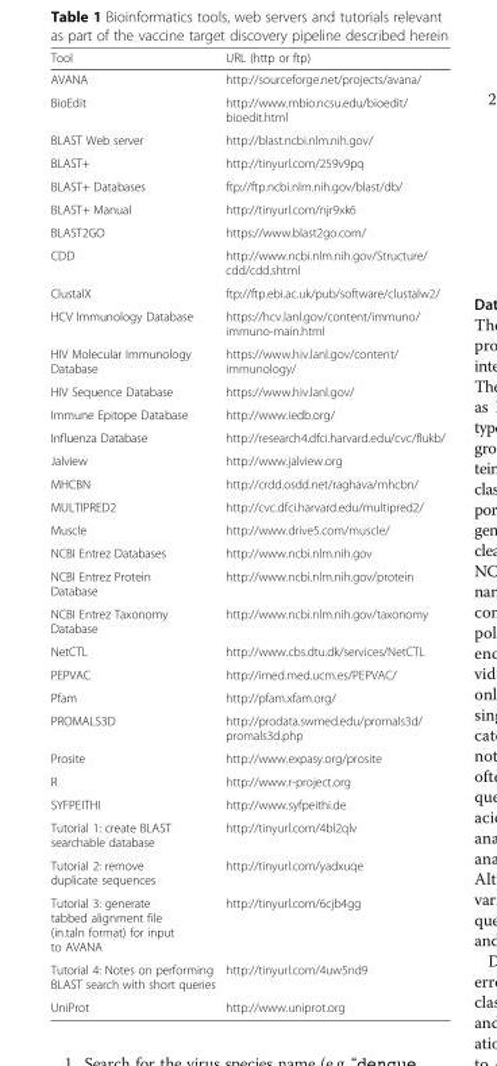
<table><thead><tr><td>Tool</td><td>URL (http or ftp)</td></tr></thead><tbody><tr><td>AVANA</td><td>http://sourceforge.net/projects/avana/</td></tr><tr><td>BioEdit</td><td>http://www.mbio.ncsu.edu/bioedit/ bioedit.html</td></tr><tr><td>BLAST Web server</td><td>http://blast.ncbi.nlm.nih.gov/</td></tr><tr><td>BLAST+</td><td>http://tinyurl.com/259v9pq</td></tr><tr><td>BLAST+ Databases</td><td>ftp://ftp.ncbi.nlm.nih.gov/blast/db/</td></tr><tr><td>BLAST+ Manual</td><td>http://tinyurl.com/njr9xk6</td></tr><tr><td>BLAST2GO</td><td>https://www.blast2go.com/</td></tr><tr><td>CDD</td><td>http://www.ncbi.nlm.nih.gov/Structure/ cdd/cdd.shtml</td></tr><tr><td>ClustalX</td><td>ftp://ftp.ebi.ac.uk/pub/software/clustalw2/</td></tr><tr><td>HCV Immunology Database</td><td>https://hcv.lanl.gov/content/immuno/ immuno-main.html</td></tr><tr><td>HIV Molecular Immunology Database</td><td>https://www.hiv.lanl.gov/content/ immunology/</td></tr><tr><td>HIV Sequence Database</td><td>https://www.hiv.lanl.gov/</td></tr><tr><td>Immune Epitope Database</td><td>http://www.iedb.org/</td></tr><tr><td>Influenza Database</td><td>http://research4.dfci.harvard.edu/cvc/flukb/</td></tr><tr><td>Jalview</td><td>http://www.jalview.org</td></tr><tr><td>MHCBN</td><td>http://crdd.osdd.net/raghava/mhcbn/</td></tr><tr><td>MULTIPRED2</td><td>http://cvc.dfci.harvard.edu/multipred2/</td></tr><tr><td>Muscle</td><td>http://www.drive5.com/muscle/</td></tr><tr><td>NCBI Entrez Databases</td><td>http://www.ncbi.nlm.nih.gov</td></tr><tr><td>NCBI Entrez Protein Database</td><td>http://www.ncbi.nlm.nih.gov/protein</td></tr><tr><td>NCBI Entrez Taxonomy Database</td><td>http://www.ncbi.nlm.nih.gov/taxonomy</td></tr><tr><td>NetCTL</td><td>http://www.cbs.dtu.dk/services/NetCTL</td></tr><tr><td>PEPVAC</td><td>http://imed.med.ucm.es/PEPVAC/</td></tr><tr><td>Pfam</td><td>http://pfam.xfam.org/</td></tr><tr><td>PROMALS3D</td><td>http://prodata.swmed.edu/promals3d/ promals3d.php</td></tr><tr><td>Prosite</td><td>http://www.expasy.org/prosite</td></tr><tr><td>R</td><td>http://www.r-project.org</td></tr><tr><td>SYFPEITHI</td><td>http://www.syfpeithi.de</td></tr><tr><td>Tutorial 1: create BLAST searchable database</td><td>http://tinyurl.com/4bl2qlv</td></tr><tr><td>Tutorial 2: remove duplicate sequences</td><td>http://tinyurl.com/yadxuqe</td></tr><tr><td>Tutorial 3: generate tabbed alignment file (in.taln format) for input to AVANA</td><td>http://tinyurl.com/6cjb4gg</td></tr><tr><td>Tutorial 4: Notes on performing BLAST search with short queries</td><td>http://tinyurl.com/4uw5nd9</td></tr><tr><td>UniProt</td><td>http://www.uniprot.org</td></tr></tbody></table>